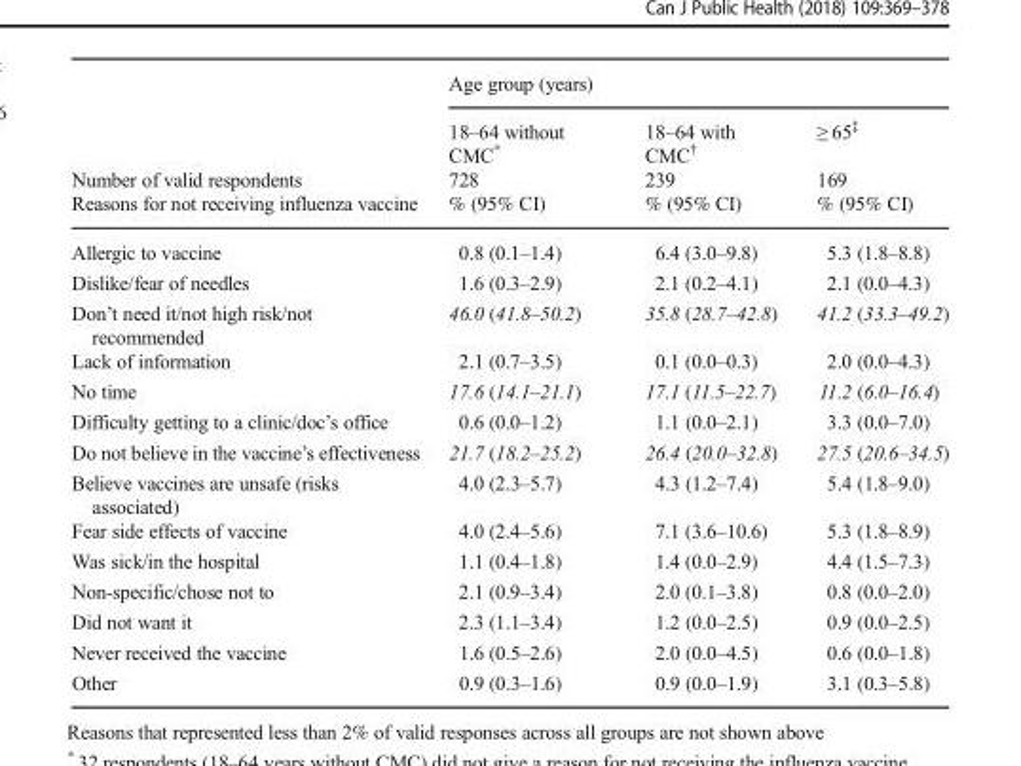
<table><thead><tr><td rowspan="4">Number of valid respondents Reasons for not receiving influenza vaccine</td><td colspan="3">Age group (years)</td></tr><tr><td rowspan="3">18–64 without CMC* 728 % (95% CI)</td><td rowspan="3">18–64 with CMC<sup>†</sup> 239 % (95% CI)</td><td rowspan="3">≥ 65<sup>‡</sup> 169 % (95% CI)</td></tr><tr></tr><tr></tr></thead><tbody><tr><td>Allergic to vaccine</td><td>0.8 (0.1–1.4)</td><td>6.4 (3.0–9.8)</td><td>5.3 (1.8–8.8)</td></tr><tr><td>Dislike/fear of needles</td><td>1.6 (0.3–2.9)</td><td>2.1 (0.2–4.1)</td><td>2.1 (0.0–4.3)</td></tr><tr><td>Don’t need it/not high risk/not recommended</td><td>46.0 (41.8–50.2)</td><td>35.8 (28.7–42.8)</td><td>41.2 (33.3–49.2)</td></tr><tr><td>Lack of information</td><td>2.1 (0.7–3.5)</td><td>0.1 (0.0–0.3)</td><td>2.0 (0.0–4.3)</td></tr><tr><td>No time</td><td>17.6 (14.1–21.1)</td><td>17.1 (11.5–22.7)</td><td>11.2 (6.0–16.4)</td></tr><tr><td>Difficulty getting to a clinic/doc’s office</td><td>0.6 (0.0–1.2)</td><td>1.1 (0.0–2.1)</td><td>3.3 (0.0–7.0)</td></tr><tr><td>Do not believe in the vaccine’s effectiveness</td><td>21.7 (18.2–25.2)</td><td>26.4 (20.0–32.8)</td><td>27.5 (20.6–34.5)</td></tr><tr><td>Believe vaccines are unsafe (risks associated)</td><td>4.0 (2.3–5.7)</td><td>4.3 (1.2–7.4)</td><td>5.4 (1.8–9.0)</td></tr><tr><td>Fear side effects of vaccine</td><td>4.0 (2.4–5.6)</td><td>7.1 (3.6–10.6)</td><td>5.3 (1.8–8.9)</td></tr><tr><td>Was sick/in the hospital</td><td>1.1 (0.4–1.8)</td><td>1.4 (0.0–2.9)</td><td>4.4 (1.5–7.3)</td></tr><tr><td>Non-specific/chose not to</td><td>2.1 (0.9–3.4)</td><td>2.0 (0.1–3.8)</td><td>0.8 (0.0–2.0)</td></tr><tr><td>Did not want it</td><td>2.3 (1.1–3.4)</td><td>1.2 (0.0–2.5)</td><td>0.9 (0.0–2.5)</td></tr><tr><td>Never received the vaccine</td><td>1.6 (0.5–2.6)</td><td>2.0 (0.0–4.5)</td><td>0.6 (0.0–1.8)</td></tr><tr><td>Other</td><td>0.9 (0.3–1.6)</td><td>0.9 (0.0–1.9)</td><td>3.1 (0.3–5.8)</td></tr></tbody></table>